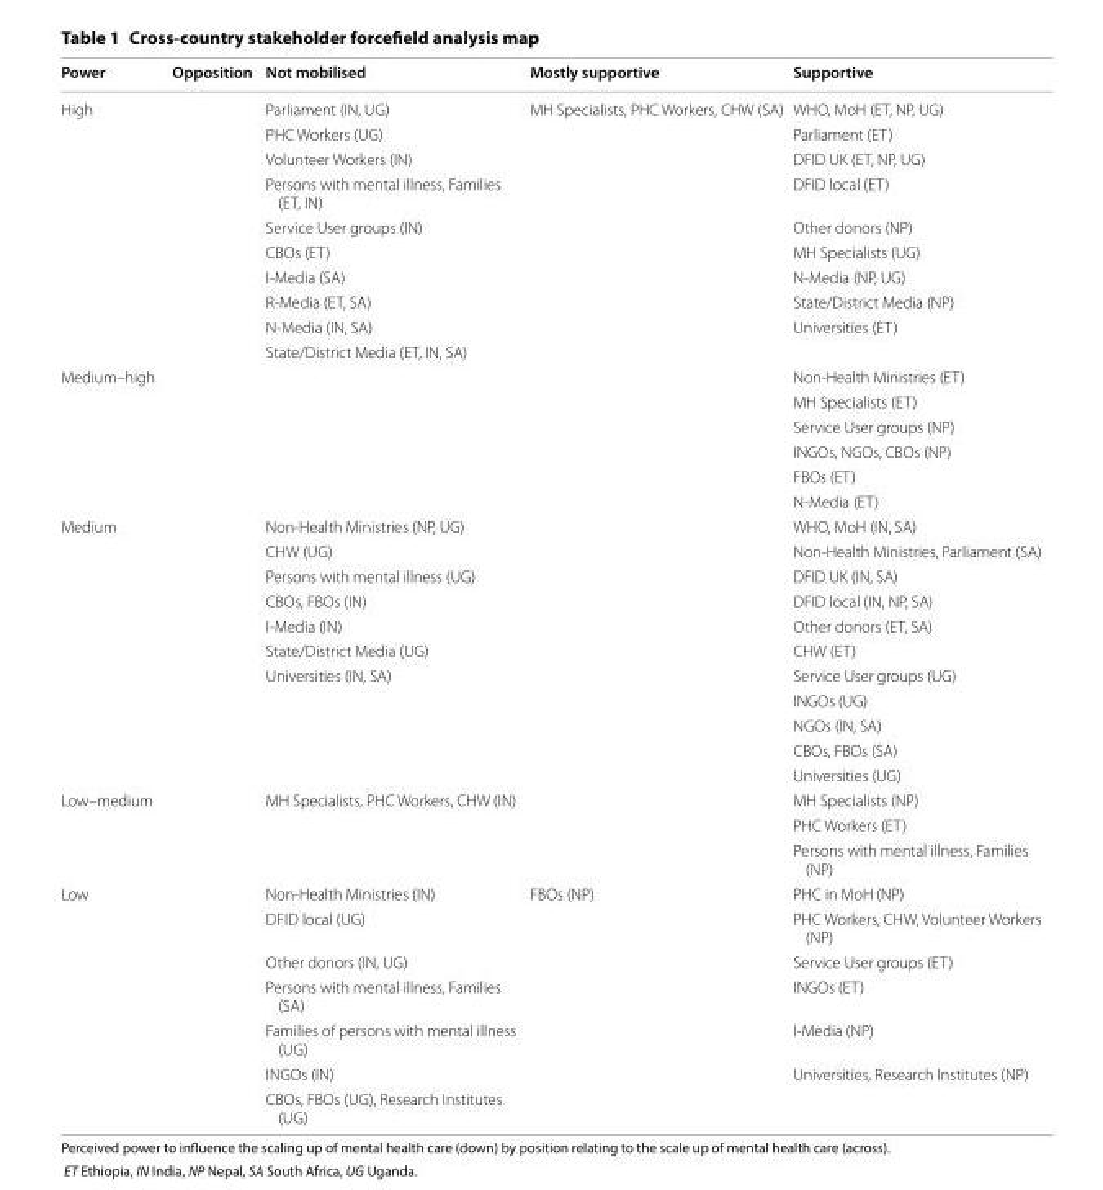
<table><thead><tr><td>Power</td><td>Opposition</td><td>Not mobilised</td><td>Mostly supportive</td><td>Supportive</td></tr></thead><tbody><tr><td rowspan="10">High</td><td rowspan="10"></td><td>Parliament (IN, UG)</td><td rowspan="10">MH Specialists, PHC Workers, CHW (SA)</td><td>WHO, MoH (ET, NP, UG)</td></tr><tr><td>PHC Workers (UG)</td><td>Parliament (ET)</td></tr><tr><td>Volunteer Workers (IN)</td><td>DFID UK (ET, NP, UG)</td></tr><tr><td>Persons with mental illness, Families (ET, IN)</td><td>DFID local (ET)</td></tr><tr><td>Service User groups (IN)</td><td>Other donors (NP)</td></tr><tr><td>CBOs (ET)</td><td>MH Specialists (UG)</td></tr><tr><td>I-Media (SA)</td><td>N-Media (NP, UG)</td></tr><tr><td>R-Media (ET, SA)</td><td>State/District Media (NP)</td></tr><tr><td>N-Media (IN, SA)</td><td rowspan="2">Universities (ET)</td></tr><tr><td>State/District Media (ET, IN, SA)</td></tr><tr><td rowspan="6">Medium–high</td><td rowspan="6"></td><td rowspan="6"></td><td rowspan="6"></td><td>Non-Health Ministries (ET)</td></tr><tr><td>MH Specialists (ET)</td></tr><tr><td>Service User groups (NP)</td></tr><tr><td>INGOs, NGOs, CBOs (NP)</td></tr><tr><td>FBOs (ET)</td></tr><tr><td>N-Media (ET)</td></tr><tr><td rowspan="11">Medium</td><td rowspan="11"></td><td>Non-Health Ministries (NP, UG)</td><td></td><td>WHO, MoH (IN, SA)</td></tr><tr><td>CHW (UG)</td><td></td><td>Non-Health Ministries, Parliament (SA)</td></tr><tr><td>Persons with mental illness (UG)</td><td></td><td>DFID UK (IN, SA)</td></tr><tr><td>CBOs, FBOs (IN)</td><td></td><td>DFID local (IN, NP, SA)</td></tr><tr><td>I-Media (IN)</td><td></td><td>Other donors (ET, SA)</td></tr><tr><td>State/District Media (UG)</td><td></td><td>CHW (ET)</td></tr><tr><td>Universities (IN, SA)</td><td></td><td>Service User groups (UG)</td></tr><tr><td rowspan="4"></td><td rowspan="4"></td><td>INGOs (UG)</td></tr><tr><td>NGOs (IN, SA)</td></tr><tr><td>CBOs, FBOs (SA)</td></tr><tr><td>Universities (UG)</td></tr><tr><td rowspan="3">Low–medium</td><td rowspan="3"></td><td>MH Specialists, PHC Workers, CHW (IN)</td><td></td><td>MH Specialists (NP)</td></tr><tr><td rowspan="2"></td><td rowspan="2"></td><td>PHC Workers (ET)</td></tr><tr><td>Persons with mental illness, Families (NP)</td></tr><tr><td rowspan="7">Low</td><td rowspan="7"></td><td>Non-Health Ministries (IN)</td><td>FBOs (NP)</td><td>PHC in MoH (NP)</td></tr><tr><td>DFID local (UG)</td><td></td><td>PHC Workers, CHW, Volunteer Workers (NP)</td></tr><tr><td>Other donors (IN, UG)</td><td></td><td>Service User groups (ET)</td></tr><tr><td>Persons with mental illness, Families (SA)</td><td></td><td>INGOs (ET)</td></tr><tr><td>Families of persons with mental illness (UG)</td><td></td><td>I-Media (NP)</td></tr><tr><td>INGOs (IN)</td><td></td><td>Universities, Research Institutes (NP)</td></tr><tr><td>CBOs, FBOs (UG), Research Institutes (UG)</td><td></td><td></td></tr></tbody></table>